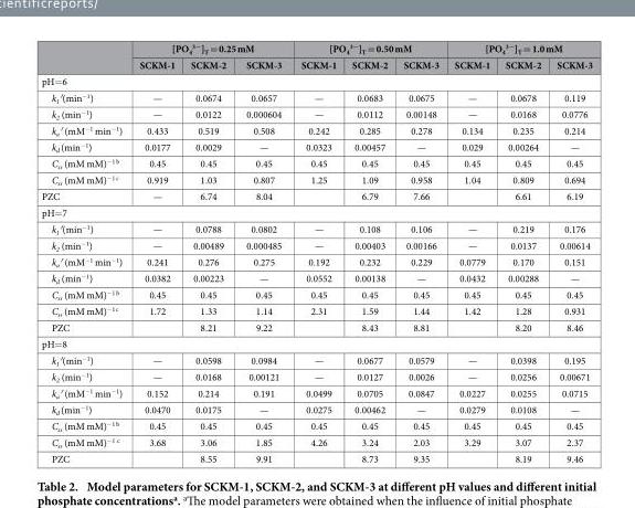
<table><thead><tr><td rowspan="2"></td><td colspan="3">[PO<sub>4</sub> <sup>3−</sup>]<sub>T</sub> = 0.25 mM</td><td colspan="3">[PO<sub>4</sub> <sup>3−</sup>]<sub>T</sub> = 0.50 mM</td><td colspan="3">[PO<sub>4</sub> <sup>3−</sup>]<sub>T</sub> = 1.0 mM</td></tr><tr><td>SCKM-1</td><td>SCKM-2</td><td>SCKM-3</td><td>SCKM-1</td><td>SCKM-2</td><td>SCKM-3</td><td>SCKM-1</td><td>SCKM-2</td><td>SCKM-3</td></tr></thead><tbody><tr><td colspan="10">pH= 6</td></tr><tr><td>k<sub>1</sub>′(min<sup>−1</sup>)</td><td>—</td><td>0.0674</td><td>0.0657</td><td>—</td><td>0.0683</td><td>0.0675</td><td>—</td><td>0.0678</td><td>0.119</td></tr><tr><td>k<sub>2</sub> (min<sup>−1</sup>)</td><td>—</td><td>0.0122</td><td>0.000604</td><td>—</td><td>0.0112</td><td>0.00148</td><td>—</td><td>0.0168</td><td>0.0776</td></tr><tr><td>k<sub>a</sub>′ (mM<sup>−1</sup> min<sup>−1</sup>)</td><td>0.433</td><td>0.519</td><td>0.508</td><td>0.242</td><td>0.285</td><td>0.278</td><td>0.134</td><td>0.235</td><td>0.214</td></tr><tr><td>k<sub>d</sub> (min<sup>−1</sup>)</td><td>0.0177</td><td>0.0029</td><td>—</td><td>0.0323</td><td>0.00457</td><td>—</td><td>0.029</td><td>0.00264</td><td>—</td></tr><tr><td>C<sub>ss</sub> (mM mM)<sup>−1 b</sup></td><td>0.45</td><td>0.45</td><td>0.45</td><td>0.45</td><td>0.45</td><td>0.45</td><td>0.45</td><td>0.45</td><td>0.45</td></tr><tr><td>C<sub>ss</sub> (mM mM)<sup>−1 c</sup></td><td>0.919</td><td>1.03</td><td>0.807</td><td>1.25</td><td>1.09</td><td>0.958</td><td>1.04</td><td>0.809</td><td>0.694</td></tr><tr><td>PZC</td><td>—</td><td>6.74</td><td>8.04</td><td></td><td>6.79</td><td>7.66</td><td></td><td>6.61</td><td>6.19</td></tr><tr><td colspan="10">pH= 7</td></tr><tr><td>k<sub>1</sub>′(min<sup>−1</sup>)</td><td>—</td><td>0.0788</td><td>0.0802</td><td>—</td><td>0.108</td><td>0.106</td><td>—</td><td>0.219</td><td>0.176</td></tr><tr><td>k<sub>2</sub> (min<sup>−1</sup>)</td><td>—</td><td>0.00489</td><td>0.000485</td><td>—</td><td>0.00403</td><td>0.00166</td><td>—</td><td>0.0137</td><td>0.00614</td></tr><tr><td>k<sub>a</sub>′ (mM<sup>−1</sup> min<sup>−1</sup>)</td><td>0.241</td><td>0.276</td><td>0.275</td><td>0.192</td><td>0.232</td><td>0.229</td><td>0.0779</td><td>0.170</td><td>0.151</td></tr><tr><td>k<sub>d</sub> (min<sup>−1</sup>)</td><td>0.0382</td><td>0.00223</td><td>—</td><td>0.0552</td><td>0.00138</td><td>—</td><td>0.0432</td><td>0.00288</td><td>—</td></tr><tr><td>C<sub>ss</sub> (mM mM)<sup>−1 b</sup></td><td>0.45</td><td>0.45</td><td>0.45</td><td>0.45</td><td>0.45</td><td>0.45</td><td>0.45</td><td>0.45</td><td>0.45</td></tr><tr><td>C<sub>ss</sub> (mM mM)<sup>−1</sup> c</td><td>1.72</td><td>1.33</td><td>1.14</td><td>2.31</td><td>1.59</td><td>1.44</td><td>1.42</td><td>1.28</td><td>0.931</td></tr><tr><td>PZC</td><td></td><td>8.21</td><td>9.22</td><td></td><td>8.43</td><td>8.81</td><td></td><td>8.20</td><td>8.46</td></tr><tr><td colspan="10">pH= 8</td></tr><tr><td>k<sub>1</sub>′(min<sup>−1</sup>)</td><td>—</td><td>0.0598</td><td>0.0984</td><td>—</td><td>0.0677</td><td>0.0579</td><td>—</td><td>0.0398</td><td>0.195</td></tr><tr><td>k<sub>2</sub> (min<sup>−1</sup>)</td><td>—</td><td>0.0168</td><td>0.00121</td><td>—</td><td>0.0127</td><td>0.0026</td><td>—</td><td>0.0256</td><td>0.00671</td></tr><tr><td>k<sub>a</sub>′ (mM<sup>−1</sup> min<sup>−1</sup>)</td><td>0.152</td><td>0.214</td><td>0.191</td><td>0.0499</td><td>0.0705</td><td>0.0847</td><td>0.0227</td><td>0.0255</td><td>0.0715</td></tr><tr><td>k<sub>d</sub> (min<sup>−1</sup>)</td><td>0.0470</td><td>0.0175</td><td>—</td><td>0.0275</td><td>0.00462</td><td>—</td><td>0.0279</td><td>0.0108</td><td>—</td></tr><tr><td>C<sub>ss</sub> (mM mM)<sup>−1 b</sup></td><td>0.45</td><td>0.45</td><td>0.45</td><td>0.45</td><td>0.45</td><td>0.45</td><td>0.45</td><td>0.45</td><td>0.45</td></tr><tr><td>C<sub>ss</sub> (mM mM)<sup>−1</sup> c</td><td>3.68</td><td>3.06</td><td>1.85</td><td>4.26</td><td>3.24</td><td>2.03</td><td>3.29</td><td>3.07</td><td>2.37</td></tr><tr><td>PZC</td><td></td><td>8.55</td><td>9.91</td><td></td><td>8.73</td><td>9.35</td><td></td><td>8.19</td><td>9.46</td></tr></tbody></table>